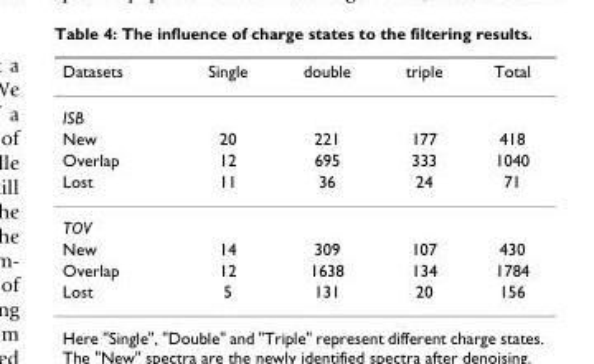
<table><thead><tr><td>Datasets</td><td>Single</td><td>double</td><td>triple</td><td>Total</td></tr></thead><tbody><tr><td colspan="5">ISB</td></tr><tr><td>New</td><td>20</td><td>221</td><td>177</td><td>418</td></tr><tr><td>Overlap</td><td>12</td><td>695</td><td>333</td><td>1040</td></tr><tr><td>Lost</td><td>11</td><td>36</td><td>24</td><td>71</td></tr><tr><td colspan="5">TOV</td></tr><tr><td>New</td><td>14</td><td>309</td><td>107</td><td>430</td></tr><tr><td>Overlap</td><td>12</td><td>1638</td><td>134</td><td>1784</td></tr><tr><td>Lost</td><td>5</td><td>131</td><td>20</td><td>156</td></tr></tbody></table>